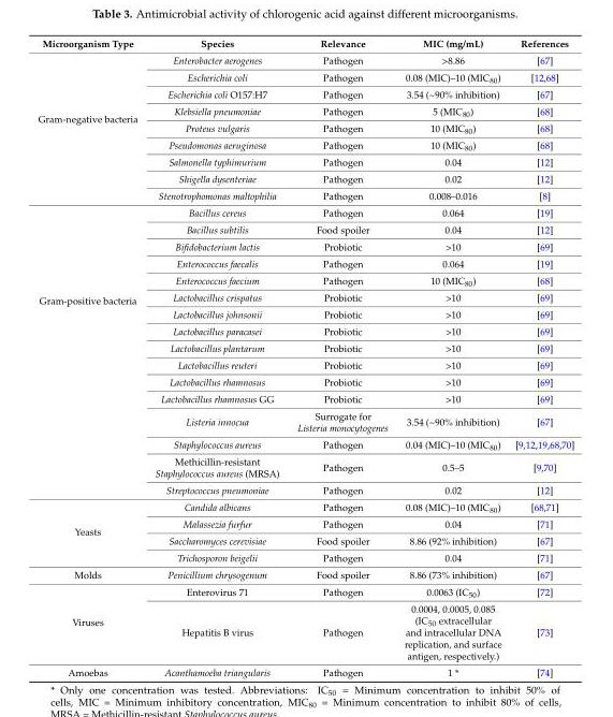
<table><thead><tr><td>Microorganism Type</td><td>Species</td><td>Relevance</td><td>MIC (mg/mL)</td><td>References</td></tr></thead><tbody><tr><td rowspan="9">Gram-negative bacteria</td><td>Enterobacter aerogenes</td><td>Pathogen</td><td>&gt;8.86</td><td>[67]</td></tr><tr><td>Escherichia coli</td><td>Pathogen</td><td>0.08 (MIC)–10 (MIC<sub>80</sub>)</td><td>[12,68]</td></tr><tr><td>Escherichia coli O157:H7</td><td>Pathogen</td><td>3.54 (~90% inhibition)</td><td>[67]</td></tr><tr><td>Klebsiella pneumoniae</td><td>Pathogen</td><td>5 (MIC<sub>80</sub>)</td><td>[68]</td></tr><tr><td>Proteus vulgaris</td><td>Pathogen</td><td>10 (MIC<sub>80</sub>)</td><td>[68]</td></tr><tr><td>Pseudomonas aeruginosa</td><td>Pathogen</td><td>10 (MIC<sub>80</sub>)</td><td>[68]</td></tr><tr><td>Salmonella typhimurium</td><td>Pathogen</td><td>0.04</td><td>[12]</td></tr><tr><td>Shigella dysenteriae</td><td>Pathogen</td><td>0.02</td><td>[12]</td></tr><tr><td>Stenotrophomonas maltophilia</td><td>Pathogen</td><td>0.008–0.016</td><td>[8]</td></tr><tr><td rowspan="16">Gram-positive bacteria</td><td>Bacillus cereus</td><td>Pathogen</td><td>0.064</td><td>[19]</td></tr><tr><td>Bacillus subtilis</td><td>Food spoiler</td><td>0.04</td><td>[12]</td></tr><tr><td>Bifidobacterium lactis</td><td>Probiotic</td><td>&gt;10</td><td>[69]</td></tr><tr><td>Enterococcus faecalis</td><td>Pathogen</td><td>0.064</td><td>[19]</td></tr><tr><td>Enterococcus faecium</td><td>Pathogen</td><td>10 (MIC<sub>80</sub>)</td><td>[68]</td></tr><tr><td>Lactobacillus crispatus</td><td>Probiotic</td><td>&gt;10</td><td>[69]</td></tr><tr><td>Lactobacillus johnsonii</td><td>Probiotic</td><td>&gt;10</td><td>[69]</td></tr><tr><td>Lactobacillus paracasei</td><td>Probiotic</td><td>&gt;10</td><td>[69]</td></tr><tr><td>Lactobacillus plantarum</td><td>Probiotic</td><td>&gt;10</td><td>[69]</td></tr><tr><td>Lactobacillus reuteri</td><td>Probiotic</td><td>&gt;10</td><td>[69]</td></tr><tr><td>Lactobacillus rhamnosus</td><td>Probiotic</td><td>&gt;10</td><td>[69]</td></tr><tr><td>Lactobacillus rhamnosus GG</td><td>Probiotic</td><td>&gt;10</td><td>[69]</td></tr><tr><td>Listeria innocua</td><td>Surrogate for Listeria monocytogenes</td><td>3.54 (~90% inhibition)</td><td>[67]</td></tr><tr><td>Staphylococcus aureus</td><td>Pathogen</td><td>0.04 (MIC)–10 (MIC<sub>80</sub>)</td><td>[9,12,19,68,70]</td></tr><tr><td>Methicillin-resistant Staphylococcus aureus (MRSA)</td><td>Pathogen</td><td>0.5–5</td><td>[9,70]</td></tr><tr><td>Streptococcus pneumoniae</td><td>Pathogen</td><td>0.02</td><td>[12]</td></tr><tr><td rowspan="4">Yeasts</td><td>Candida albicans</td><td>Pathogen</td><td>0.08 (MIC)–10 (MIC<sub>80</sub>)</td><td>[68,71]</td></tr><tr><td>Malassezia furfur</td><td>Pathogen</td><td>0.04</td><td>[71]</td></tr><tr><td>Saccharomyces cerevisiae</td><td>Food spoiler</td><td>8.86 (92% inhibition)</td><td>[67]</td></tr><tr><td>Trichosporon beigelii</td><td>Pathogen</td><td>0.04</td><td>[71]</td></tr><tr><td>Molds</td><td>Penicillium chrysogenum</td><td>Food spoiler</td><td>8.86 (73% inhibition)</td><td>[67]</td></tr><tr><td rowspan="2">Viruses</td><td>Enterovirus 71</td><td>Pathogen</td><td>0.0063 (IC<sub>50</sub>)</td><td>[72]</td></tr><tr><td>Hepatitis B virus</td><td>Pathogen</td><td>0.0004, 0.0005, 0.085 (IC<sub>50</sub> extracellular and intracellular DNA replication, and surface antigen, respectively.)</td><td>[73]</td></tr><tr><td>Amoebas</td><td>Acanthamoeba triangularis</td><td>Pathogen</td><td>1 *</td><td>[74]</td></tr></tbody></table>